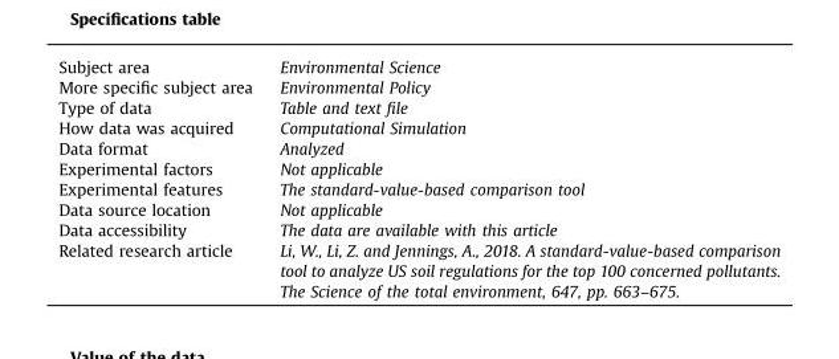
<table><tbody><tr><td>Subject area</td><td>Environmental Science</td></tr><tr><td>More specific subject area</td><td>Environmental Policy</td></tr><tr><td>Type of data</td><td>Table and text file</td></tr><tr><td>How data was acquired</td><td>Computational Simulation</td></tr><tr><td>Data format</td><td>Analyzed</td></tr><tr><td>Experimental factors</td><td>Not applicable</td></tr><tr><td>Experimental features</td><td>The standard-value-based comparison tool</td></tr><tr><td>Data source location</td><td>Not applicable</td></tr><tr><td>Data accessibility</td><td>The data are available with this article</td></tr><tr><td>Related research article</td><td>Li, W., Li, Z. and Jennings, A., 2018. A standard-value-based comparison tool to analyze US soil regulations for the top 100 concerned pollutants. The Science of the total environment, 647, pp. 663–675.</td></tr></tbody></table>